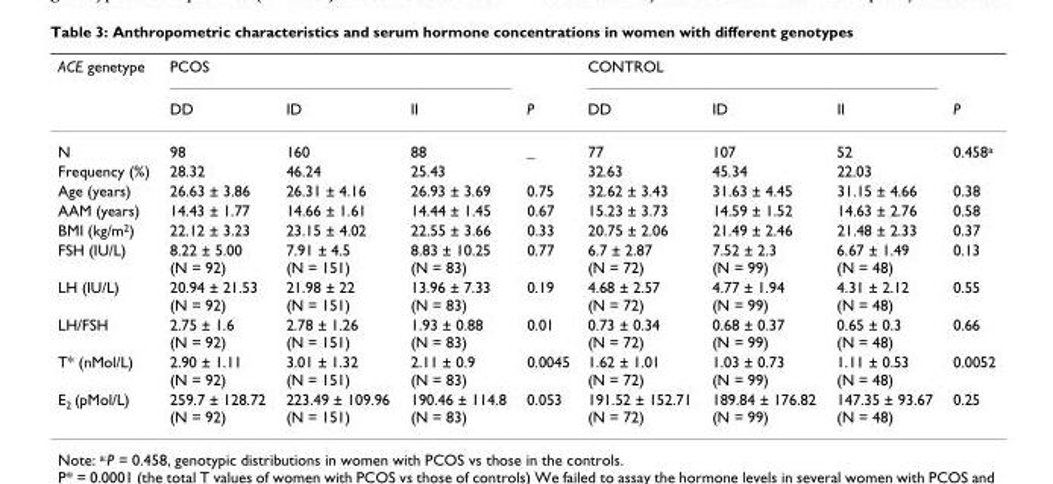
<table><thead><tr><td rowspan="2">ACE genetype</td><td colspan="3">PCOS</td><td rowspan="2">P</td><td colspan="3">CONTROL</td><td rowspan="2">P</td></tr><tr><td>DD</td><td>ID</td><td>II</td><td>DD</td><td>ID</td><td>II</td></tr></thead><tbody><tr><td>N</td><td>98</td><td>160</td><td>88</td><td>_</td><td>77</td><td>107</td><td>52</td><td>0.458<sup>a</sup></td></tr><tr><td>Frequency (%)</td><td>28.32</td><td>46.24</td><td>25.43</td><td></td><td>32.63</td><td>45.34</td><td>22.03</td><td></td></tr><tr><td>Age (years)</td><td>26.63 ± 3.86</td><td>26.31 ± 4.16</td><td>26.93 ± 3.69</td><td>0.75</td><td>32.62 ± 3.43</td><td>31.63 ± 4.45</td><td>31.15 ± 4.66</td><td>0.38</td></tr><tr><td>AAM (years)</td><td>14.43 ± 1.77</td><td>14.66 ± 1.61</td><td>14.44 ± 1.45</td><td>0.67</td><td>15.23 ± 3.73</td><td>14.59 ± 1.52</td><td>14.63 ± 2.76</td><td>0.58</td></tr><tr><td>BMI (kg/m<sup>2</sup>)</td><td>22.12 ± 3.23</td><td>23.15 ± 4.02</td><td>22.55 ± 3.66</td><td>0.33</td><td>20.75 ± 2.06</td><td>21.49 ± 2.46</td><td>21.48 ± 2.33</td><td>0.37</td></tr><tr><td>FSH (IU/L)</td><td>8.22 ± 5.00 (N = 92)</td><td>7.91 ± 4.5 (N = 151)</td><td>8.83 ± 10.25 (N = 83)</td><td>0.77</td><td>6.7 ± 2.87 (N = 72)</td><td>7.52 ± 2.3 (N = 99)</td><td>6.67 ± 1.49 (N = 48)</td><td>0.13</td></tr><tr><td>LH (IU/L)</td><td>20.94 ± 21.53 (N = 92)</td><td>21.98 ± 22 (N = 151)</td><td>13.96 ± 7.33 (N = 83)</td><td>0.19</td><td>4.68 ± 2.57 (N = 72)</td><td>4.77 ± 1.94 (N = 99)</td><td>4.31 ± 2.12 (N = 48)</td><td>0.55</td></tr><tr><td>LH/FSH</td><td>2.75 ± 1.6 (N = 92)</td><td>2.78 ± 1.26 (N = 151)</td><td>1.93 ± 0.88 (N = 83)</td><td>0.01</td><td>0.73 ± 0.34 (N = 72)</td><td>0.68 ± 0.37 (N = 99)</td><td>0.65 ± 0.3 (N = 48)</td><td>0.66</td></tr><tr><td>T* (nMol/L)</td><td>2.90 ± 1.11 (N = 92)</td><td>3.01 ± 1.32 (N = 151)</td><td>2.11 ± 0.9 (N = 83)</td><td>0.0045</td><td>1.62 ± 1.01 (N = 72)</td><td>1.03 ± 0.73 (N = 99)</td><td>1.11 ± 0.53 (N = 48)</td><td>0.0052</td></tr><tr><td>E<sub>2</sub> (pMol/L)</td><td>259.7 ± 128.72 (N = 92)</td><td>223.49 ± 109.96 (N = 151)</td><td>190.46 ± 114.8 (N = 83)</td><td>0.053</td><td>191.52 ± 152.71 (N = 72)</td><td>189.84 ± 176.82 (N = 99)</td><td>147.35 ± 93.67 (N = 48)</td><td>0.25</td></tr></tbody></table>